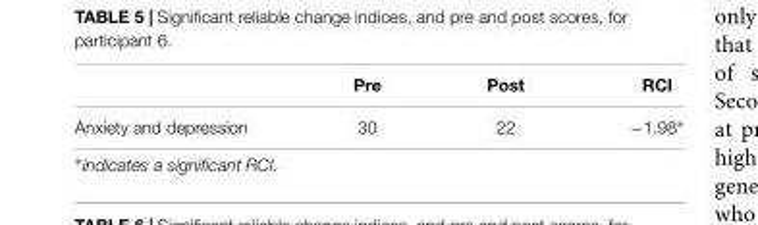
<table><thead><tr><td></td><td>Pre</td><td>Post</td><td>RCI</td></tr></thead><tbody><tr><td>Anxiety and depression</td><td>30</td><td>22</td><td>−1.98∗</td></tr></tbody></table>